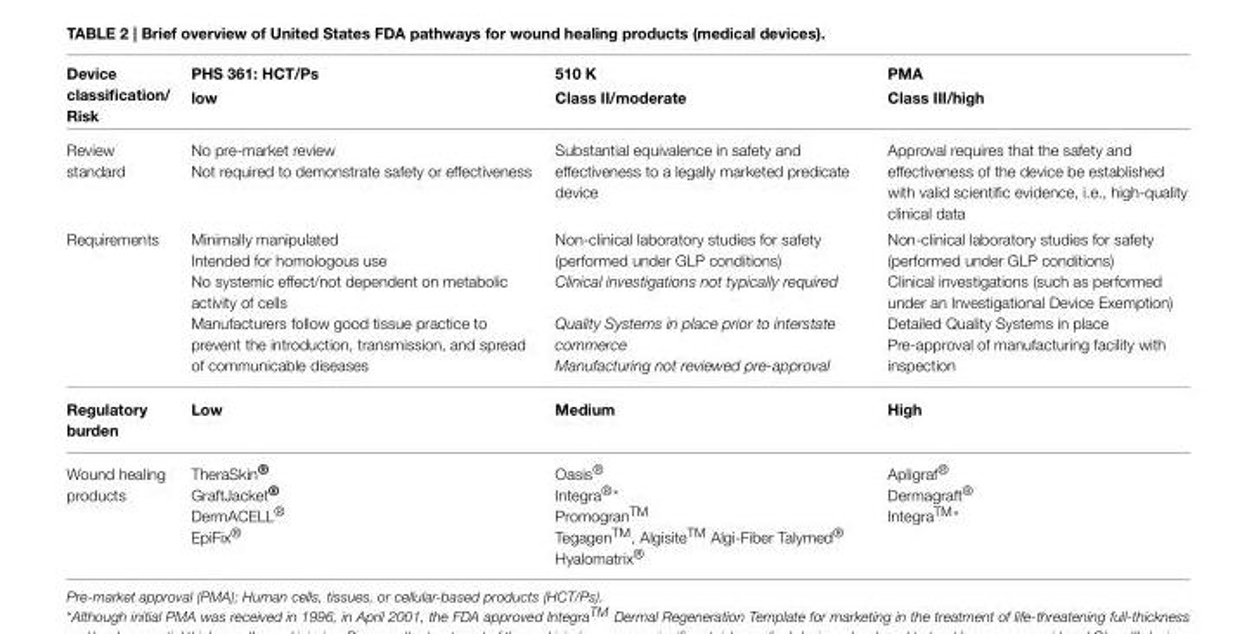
<table><thead><tr><td>Device classification/ Risk</td><td>PHS 361: HCT/Ps low</td><td>510 K Class II/moderate</td><td>PMA Class III/high</td></tr></thead><tbody><tr><td>Review standard</td><td>No pre-market review Not required to demonstrate safety or effectiveness</td><td>Substantial equivalence in safety and effectiveness to a legally marketed predicate device</td><td>Approval requires that the safety and effectiveness of the device be established with valid scientific evidence, i.e., high-quality clinical data</td></tr><tr><td>Requirements</td><td>Minimally manipulated Intended for homologous use No systemic effect/not dependent on metabolic activity of cells Manufacturers follow good tissue practice to prevent the introduction, transmission, and spread of communicable diseases</td><td>Non-clinical laboratory studies for safety (performed under GLP conditions) Clinical investigations not typically required Quality Systems in place prior to interstate commerce Manufacturing not reviewed pre-approval</td><td>Non-clinical laboratory studies for safety (performed under GLP conditions) Clinical investigations (such as performed under an Investigational Device Exemption) Detailed Quality Systems in place Pre-approval of manufacturing facility with inspection</td></tr><tr><td>Regulatory burden</td><td>Low</td><td>Medium</td><td>High</td></tr><tr><td>Wound healing products</td><td>TheraSkin® GraftJacket® DermACELL® EpiFix®</td><td>Oasis® Integra®* PromogranTM TegagenTM, AlgisiteTM Algi-Fiber Talymed® Hyalomatrix®</td><td>Apligraf® Dermagraft® IntegraTM*</td></tr></tbody></table>